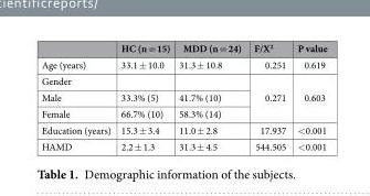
<table><thead><tr><td></td><td>HC (n = 15)</td><td>MDD (n = 24)</td><td>F/X<sup>2</sup></td><td>P value</td></tr></thead><tbody><tr><td>Age (years)</td><td>33.1 ± 10.0</td><td>31.3 ± 10.8</td><td>0.251</td><td>0.619</td></tr><tr><td colspan="3">Gender</td><td rowspan="3">0.271</td><td rowspan="3">0.603</td></tr><tr><td>Male</td><td>33.3% (5)</td><td>41.7% (10)</td></tr><tr><td>Female</td><td>66.7% (10)</td><td>58.3% (14)</td></tr><tr><td>Education (years)</td><td>15.3 ± 3.4</td><td>11.0 ± 2.8</td><td>17.937</td><td>&lt;0.001</td></tr><tr><td>HAMD</td><td>2.2 ± 1.3</td><td>31.3 ± 4.5</td><td>544.505</td><td>&lt;0.001</td></tr></tbody></table>